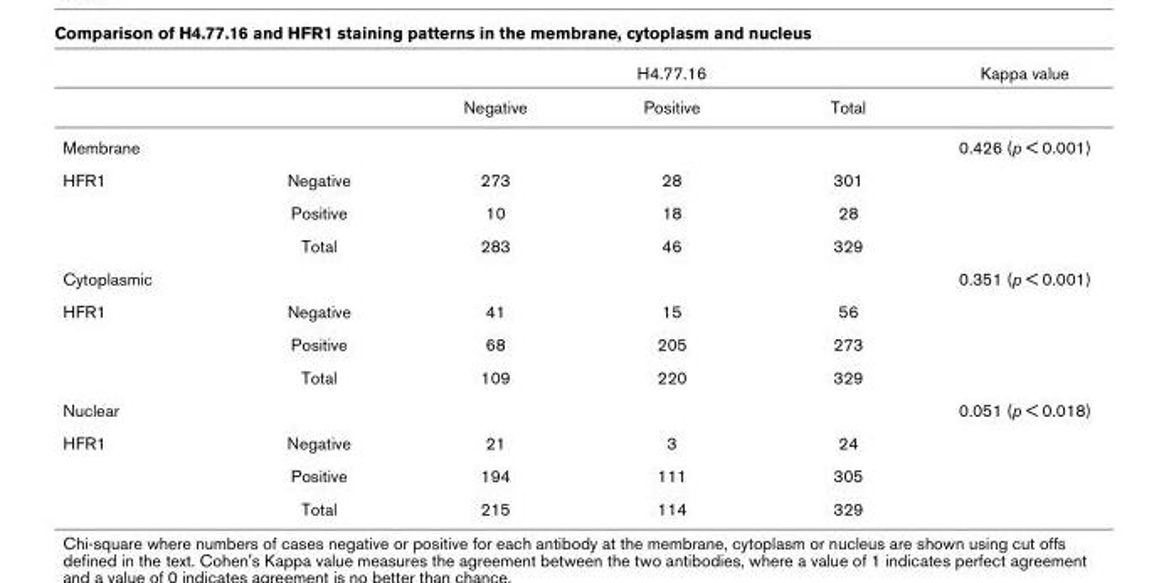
<table><thead><tr><td rowspan="2"></td><td rowspan="2"></td><td colspan="3">H4.77.16</td><td rowspan="2">Kappa value</td></tr><tr><td>Negative</td><td>Positive</td><td>Total</td></tr></thead><tbody><tr><td>Membrane</td><td></td><td></td><td></td><td></td><td>0.426 (p &lt; 0.001)</td></tr><tr><td rowspan="3">HFR1</td><td>Negative</td><td>273</td><td>28</td><td>301</td><td></td></tr><tr><td>Positive</td><td>10</td><td>18</td><td>28</td><td></td></tr><tr><td>Total</td><td>283</td><td>46</td><td>329</td><td></td></tr><tr><td>Cytoplasmic</td><td></td><td></td><td></td><td></td><td>0.351 (p &lt; 0.001)</td></tr><tr><td rowspan="3">HFR1</td><td>Negative</td><td>41</td><td>15</td><td>56</td><td></td></tr><tr><td>Positive</td><td>68</td><td>205</td><td>273</td><td></td></tr><tr><td>Total</td><td>109</td><td>220</td><td>329</td><td></td></tr><tr><td>Nuclear</td><td></td><td></td><td></td><td></td><td>0.051 (p &lt; 0.018)</td></tr><tr><td rowspan="3">HFR1</td><td>Negative</td><td>21</td><td>3</td><td>24</td><td></td></tr><tr><td>Positive</td><td>194</td><td>111</td><td>305</td><td></td></tr><tr><td>Total</td><td>215</td><td>114</td><td>329</td><td></td></tr></tbody></table>